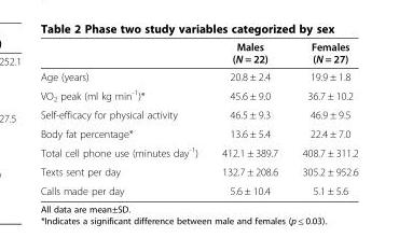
<table><thead><tr><td></td><td>Males (N = 22)</td><td>Females (N = 27)</td></tr></thead><tbody><tr><td>Age (years)</td><td>20.8 ± 2.4</td><td>19.9 ± 1.8</td></tr><tr><td>VO<sub>2</sub> peak (ml kg min<sup>-1</sup>)*</td><td>45.6 ± 9.0</td><td>36.7 ± 10.2</td></tr><tr><td>Self-efficacy for physical activity</td><td>46.5 ± 9.3</td><td>46.9 ± 9.5</td></tr><tr><td>Body fat percentage*</td><td>13.6 ± 5.4</td><td>22.4 ± 7.0</td></tr><tr><td>Total cell phone use (minutes day<sup>-1</sup>)</td><td>412.1 ± 389.7</td><td>408.7 ± 311.2</td></tr><tr><td>Texts sent per day</td><td>132.7 ± 208.6</td><td>305.2 ± 952.6</td></tr><tr><td>Calls made per day</td><td>5.6 ± 10.4</td><td>5.1 ± 5.6</td></tr></tbody></table>